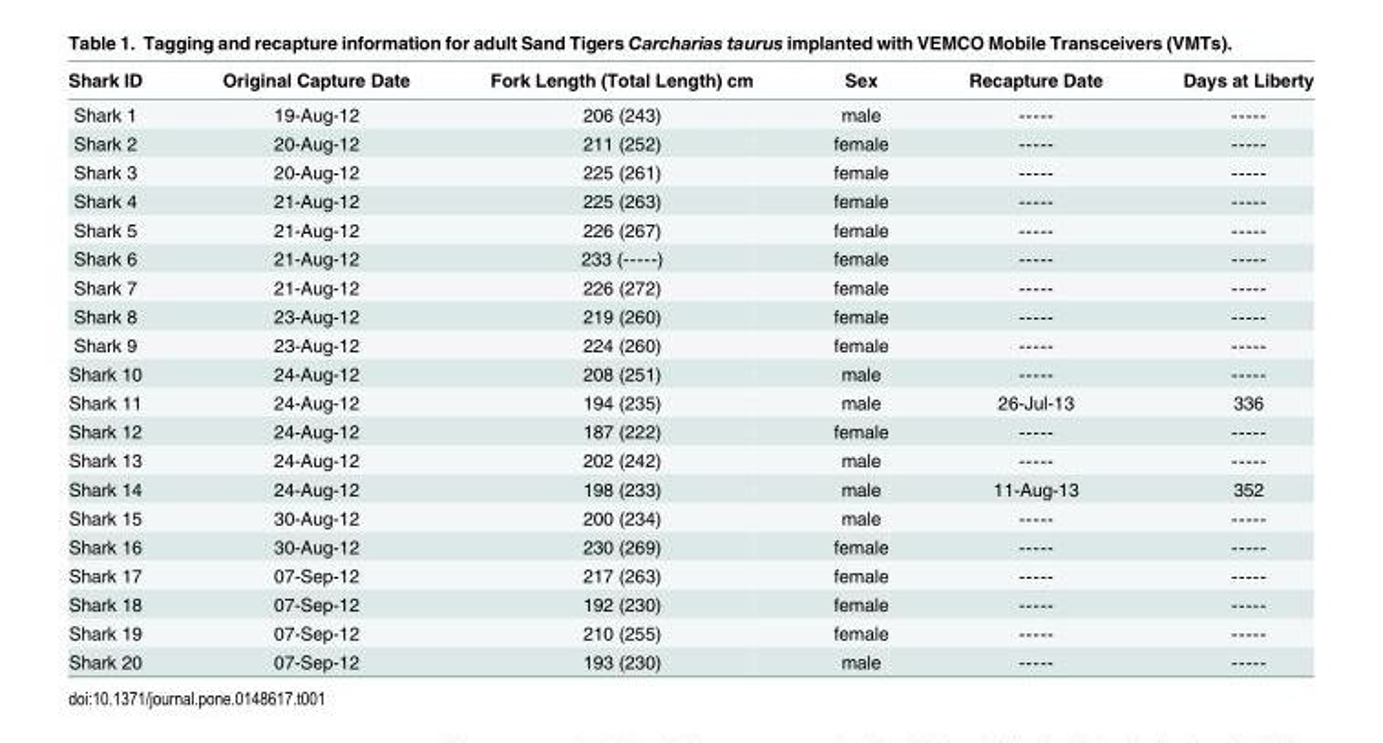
<table><thead><tr><td>Shark ID</td><td>Original Capture Date</td><td>Fork Length (Total Length) cm</td><td>Sex</td><td>Recapture Date</td><td>Days at Liberty</td></tr></thead><tbody><tr><td>Shark 1</td><td>19-Aug-12</td><td>206 (243)</td><td>male</td><td>-----</td><td>-----</td></tr><tr><td>Shark 2</td><td>20-Aug-12</td><td>211 (252)</td><td>female</td><td>-----</td><td>-----</td></tr><tr><td>Shark 3</td><td>20-Aug-12</td><td>225 (261)</td><td>female</td><td>-----</td><td>-----</td></tr><tr><td>Shark 4</td><td>21-Aug-12</td><td>225 (263)</td><td>female</td><td>-----</td><td>-----</td></tr><tr><td>Shark 5</td><td>21-Aug-12</td><td>226 (267)</td><td>female</td><td>-----</td><td>-----</td></tr><tr><td>Shark 6</td><td>21-Aug-12</td><td>233 (-----)</td><td>female</td><td>-----</td><td>-----</td></tr><tr><td>Shark 7</td><td>21-Aug-12</td><td>226 (272)</td><td>female</td><td>-----</td><td>-----</td></tr><tr><td>Shark 8</td><td>23-Aug-12</td><td>219 (260)</td><td>female</td><td>-----</td><td>-----</td></tr><tr><td>Shark 9</td><td>23-Aug-12</td><td>224 (260)</td><td>female</td><td>-----</td><td>-----</td></tr><tr><td>Shark 10</td><td>24-Aug-12</td><td>208 (251)</td><td>male</td><td>-----</td><td>-----</td></tr><tr><td>Shark 11</td><td>24-Aug-12</td><td>194 (235)</td><td>male</td><td>26-Jul-13</td><td>336</td></tr><tr><td>Shark 12</td><td>24-Aug-12</td><td>187 (222)</td><td>female</td><td>-----</td><td>-----</td></tr><tr><td>Shark 13</td><td>24-Aug-12</td><td>202 (242)</td><td>male</td><td>-----</td><td>-----</td></tr><tr><td>Shark 14</td><td>24-Aug-12</td><td>198 (233)</td><td>male</td><td>11-Aug-13</td><td>352</td></tr><tr><td>Shark 15</td><td>30-Aug-12</td><td>200 (234)</td><td>male</td><td>-----</td><td>-----</td></tr><tr><td>Shark 16</td><td>30-Aug-12</td><td>230 (269)</td><td>female</td><td>-----</td><td>-----</td></tr><tr><td>Shark 17</td><td>07-Sep-12</td><td>217 (263)</td><td>female</td><td>-----</td><td>-----</td></tr><tr><td>Shark 18</td><td>07-Sep-12</td><td>192 (230)</td><td>female</td><td>-----</td><td>-----</td></tr><tr><td>Shark 19</td><td>07-Sep-12</td><td>210 (255)</td><td>female</td><td>-----</td><td>-----</td></tr><tr><td>Shark 20</td><td>07-Sep-12</td><td>193 (230)</td><td>male</td><td>-----</td><td>-----</td></tr></tbody></table>